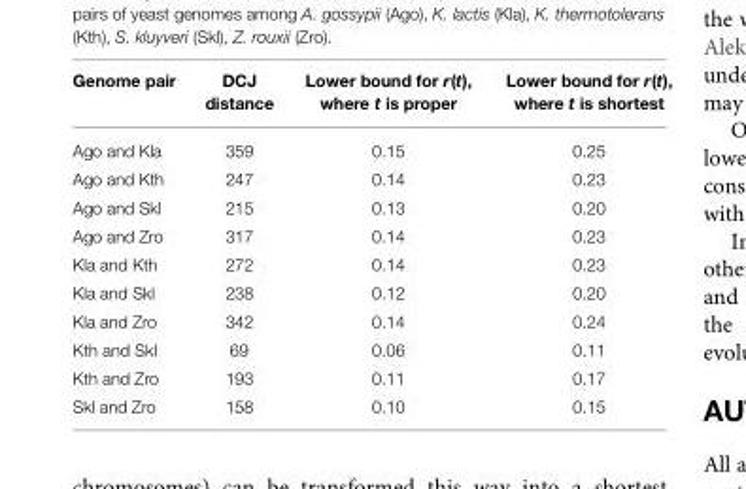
<table><thead><tr><td>Genome pair</td><td>DCJ distance</td><td>Lower bound for r(t), where t is proper</td><td>Lower bound for r(t), where t is shortest</td></tr></thead><tbody><tr><td>Ago and Kla</td><td>359</td><td>0.15</td><td>0.25</td></tr><tr><td>Ago and Kth</td><td>247</td><td>0.14</td><td>0.23</td></tr><tr><td>Ago and Skl</td><td>215</td><td>0.13</td><td>0.20</td></tr><tr><td>Ago and Zro</td><td>317</td><td>0.14</td><td>0.23</td></tr><tr><td>Kla and Kth</td><td>272</td><td>0.14</td><td>0.23</td></tr><tr><td>Kla and Skl</td><td>238</td><td>0.12</td><td>0.20</td></tr><tr><td>Kla and Zro</td><td>342</td><td>0.14</td><td>0.24</td></tr><tr><td>Kth and Skl</td><td>69</td><td>0.06</td><td>0.11</td></tr><tr><td>Kth and Zro</td><td>193</td><td>0.11</td><td>0.17</td></tr><tr><td>Skl and Zro</td><td>158</td><td>0.10</td><td>0.15</td></tr></tbody></table>